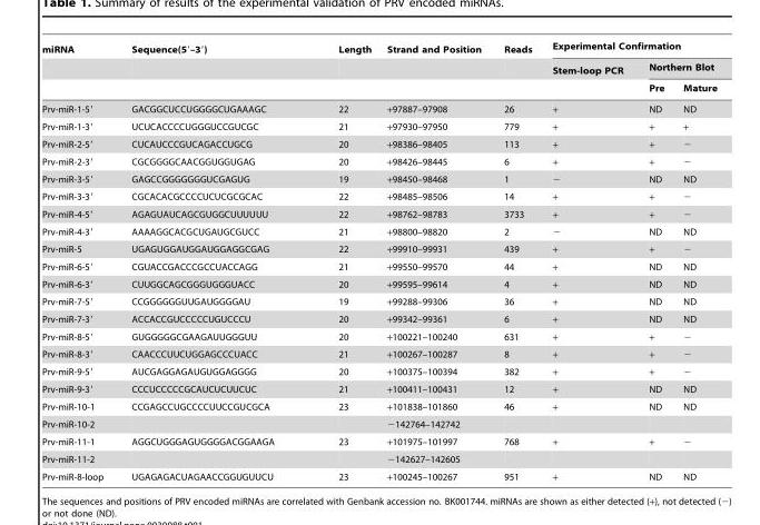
<table><thead><tr><td rowspan="3">miRNA</td><td rowspan="3">Sequence(5′–3′)</td><td rowspan="3">Length</td><td rowspan="3">Strand and Position</td><td rowspan="3">Reads</td><td colspan="3">Experimental Confirmation</td></tr><tr><td rowspan="2">Stem-loop PCR</td><td colspan="2">Northern Blot</td></tr><tr><td>Pre</td><td>Mature</td></tr></thead><tbody><tr><td>Prv-miR-1-5′</td><td>GACGGCUCCUGGGGCUGAAAGC</td><td>22</td><td>+97887–97908</td><td>26</td><td>+</td><td>ND</td><td>ND</td></tr><tr><td>Prv-miR-1-3′</td><td>UCUCACCCCUGGGUCCGUCGC</td><td>21</td><td>+97930–97950</td><td>779</td><td>+</td><td>+</td><td>+</td></tr><tr><td>Prv-miR-2-5′</td><td>CUCAUCCCGUCAGACCUGCG</td><td>20</td><td>+98386–98405</td><td>113</td><td>+</td><td>+</td><td>−</td></tr><tr><td>Prv-miR-2-3′</td><td>CGCGGGGCAACGGUGGUGAG</td><td>20</td><td>+98426–98445</td><td>6</td><td>+</td><td>+</td><td>−</td></tr><tr><td>Prv-miR-3-5′</td><td>GAGCCGGGGGGGUCGAGUG</td><td>19</td><td>+98450–98468</td><td>1</td><td>−</td><td>ND</td><td>ND</td></tr><tr><td>Prv-miR-3-3′</td><td>CGCACACGCCCCUCUCGCGCAC</td><td>22</td><td>+98485–98506</td><td>14</td><td>+</td><td>+</td><td>−</td></tr><tr><td>Prv-miR-4-5′</td><td>AGAGUAUCAGCGUGGCUUUUUU</td><td>22</td><td>+98762–98783</td><td>3733</td><td>+</td><td>+</td><td>−</td></tr><tr><td>Prv-miR-4-3′</td><td>AAAAGGCACGCUGAUGCGUCC</td><td>21</td><td>+98800–98820</td><td>2</td><td>−</td><td>ND</td><td>ND</td></tr><tr><td>Prv-miR-5</td><td>UGAGUGGAUGGAUGGAGGCGAG</td><td>22</td><td>+99910–99931</td><td>439</td><td>+</td><td>+</td><td>−</td></tr><tr><td>Prv-miR-6-5′</td><td>CGUACCGACCCGCCUACCAGG</td><td>21</td><td>+99550–99570</td><td>44</td><td>+</td><td>ND</td><td>ND</td></tr><tr><td>Prv-miR-6-3′</td><td>CUUGGCAGCGGGUGGGUACC</td><td>20</td><td>+99595–99614</td><td>4</td><td>+</td><td>ND</td><td>ND</td></tr><tr><td>Prv-miR-7-5′</td><td>CCGGGGGGUUGAUGGGGAU</td><td>19</td><td>+99288–99306</td><td>36</td><td>+</td><td>ND</td><td>ND</td></tr><tr><td>Prv-miR-7-3′</td><td>ACCACCGUCCCCCUGUCCCU</td><td>20</td><td>+99342–99361</td><td>6</td><td>+</td><td>ND</td><td>ND</td></tr><tr><td>Prv-miR-8-5′</td><td>GUGGGGGCGAAGAUUGGGUU</td><td>20</td><td>+100221–100240</td><td>631</td><td>+</td><td>+</td><td>−</td></tr><tr><td>Prv-miR-8-3′</td><td>CAACCCUUCUGGAGCCCUACC</td><td>21</td><td>+100267–100287</td><td>8</td><td>+</td><td>+</td><td>−</td></tr><tr><td>Prv-miR-9-5′</td><td>AUCGAGGAGAUGUGGAGGGG</td><td>20</td><td>+100375–100394</td><td>382</td><td>+</td><td>+</td><td>−</td></tr><tr><td>Prv-miR-9-3′</td><td>CCCUCCCCCGCAUCUCUUCUC</td><td>21</td><td>+100411–100431</td><td>12</td><td>+</td><td>ND</td><td>ND</td></tr><tr><td>Prv-miR-10-1</td><td>CCGAGCCUGCCCCUUCCGUCGCA</td><td>23</td><td>+101838–101860</td><td>46</td><td>+</td><td>ND</td><td>ND</td></tr><tr><td>Prv-miR-10-2</td><td></td><td></td><td>−142764–142742</td><td></td><td></td><td></td><td></td></tr><tr><td>Prv-miR-11-1</td><td>AGGCUGGGAGUGGGGACGGAAGA</td><td>23</td><td>+101975–101997</td><td>768</td><td>+</td><td>+</td><td>−</td></tr><tr><td>Prv-miR-11-2</td><td></td><td></td><td>−142627–142605</td><td></td><td></td><td></td><td></td></tr><tr><td>Prv-miR-8-loop</td><td>UGAGAGACUAGAACCGGUGUUCU</td><td>23</td><td>+100245–100267</td><td>951</td><td>+</td><td>ND</td><td>ND</td></tr></tbody></table>